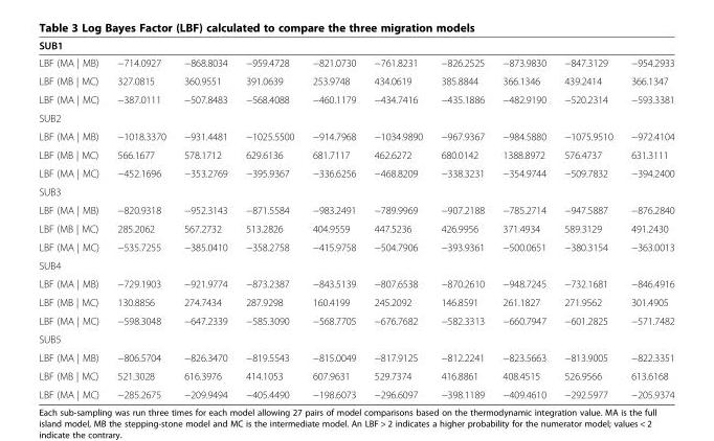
<table><thead><tr><td>SUB1</td><td></td><td></td><td></td><td></td><td></td><td></td><td></td><td></td><td></td></tr></thead><tbody><tr><td>LBF (MA | MB)</td><td>−714.0927</td><td>−868.8034</td><td>−959.4728</td><td>−821.0730</td><td>−761.8231</td><td>−826.2525</td><td>−873.9830</td><td>−847.3129</td><td>−954.2933</td></tr><tr><td>LBF (MB | MC)</td><td>327.0815</td><td>360.9551</td><td>391.0639</td><td>253.9748</td><td>434.0619</td><td>385.8844</td><td>366.1346</td><td>439.2414</td><td>366.1347</td></tr><tr><td>LBF (MA | MC)</td><td>−387.0111</td><td>−507.8483</td><td>−568.4088</td><td>−460.1179</td><td>−434.7416</td><td>−435.1886</td><td>−482.9190</td><td>−520.2314</td><td>−593.3381</td></tr><tr><td colspan="10">SUB2</td></tr><tr><td>LBF (MA | MB)</td><td>−1018.3370</td><td>−931.4481</td><td>−1025.5500</td><td>−914.7968</td><td>−1034.9890</td><td>−967.9367</td><td>−984.5880</td><td>−1075.9510</td><td>−972.4104</td></tr><tr><td>LBF (MB | MC)</td><td>566.1677</td><td>578.1712</td><td>629.6136</td><td>681.7117</td><td>462.6272</td><td>680.0142</td><td>1388.8972</td><td>576.4737</td><td>631.3111</td></tr><tr><td>LBF (MA | MC)</td><td>−452.1696</td><td>−353.2769</td><td>−395.9367</td><td>−336.6256</td><td>−468.8209</td><td>−338.3231</td><td>−354.9744</td><td>−509.7832</td><td>−394.2400</td></tr><tr><td colspan="10">SUB3</td></tr><tr><td>LBF (MA | MB)</td><td>−820.9318</td><td>−952.3143</td><td>−871.5584</td><td>−983.2491</td><td>−789.9969</td><td>−907.2188</td><td>−785.2714</td><td>−947.5887</td><td>−876.2840</td></tr><tr><td>LBF (MB | MC)</td><td>285.2062</td><td>567.2732</td><td>513.2826</td><td>404.9559</td><td>447.5236</td><td>426.9956</td><td>371.4934</td><td>589.3129</td><td>491.2430</td></tr><tr><td>LBF (MA | MC)</td><td>−535.7255</td><td>−385.0410</td><td>−358.2758</td><td>−415.9758</td><td>−504.7906</td><td>−393.9361</td><td>−500.0651</td><td>−380.3154</td><td>−363.0013</td></tr><tr><td colspan="10">SUB4</td></tr><tr><td>LBF (MA | MB)</td><td>−729.1903</td><td>−921.9774</td><td>−873.2387</td><td>−843.5139</td><td>−807.6538</td><td>−870.2610</td><td>−948.7245</td><td>−732.1681</td><td>−846.4916</td></tr><tr><td>LBF (MB | MC)</td><td>130.8856</td><td>274.7434</td><td>287.9298</td><td>160.4199</td><td>245.2092</td><td>146.8591</td><td>261.1827</td><td>271.9562</td><td>301.4905</td></tr><tr><td>LBF (MA | MC)</td><td>−598.3048</td><td>−647.2339</td><td>−585.3090</td><td>−568.7705</td><td>−676.7682</td><td>−582.3313</td><td>−660.7947</td><td>−601.2825</td><td>−571.7482</td></tr><tr><td colspan="10">SUB5</td></tr><tr><td>LBF (MA | MB)</td><td>−806.5704</td><td>−826.3470</td><td>−819.5543</td><td>−815.0049</td><td>−817.9125</td><td>−812.2241</td><td>−823.5663</td><td>−813.9005</td><td>−822.3351</td></tr><tr><td>LBF (MB | MC)</td><td>521.3028</td><td>616.3976</td><td>414.1053</td><td>607.9631</td><td>529.7374</td><td>416.8861</td><td>408.4515</td><td>526.9566</td><td>613.6168</td></tr><tr><td>LBF (MA | MC)</td><td>−285.2675</td><td>−209.9494</td><td>−405.4490</td><td>−198.6073</td><td>−296.6097</td><td>−398.1189</td><td>−409.4610</td><td>−292.5977</td><td>−205.9374</td></tr></tbody></table>